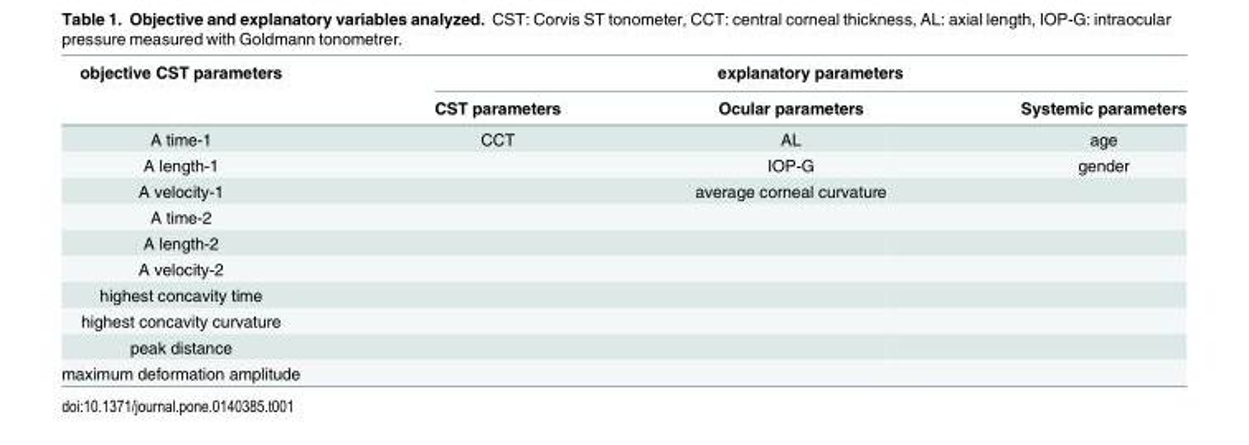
<table><thead><tr><td rowspan="2">objective CST parameters</td><td colspan="3">explanatory parameters</td></tr><tr><td>CST parameters</td><td>Ocular parameters</td><td>Systemic parameters</td></tr></thead><tbody><tr><td>A time-1</td><td>CCT</td><td>AL</td><td>age</td></tr><tr><td>A length-1</td><td></td><td>IOP-G</td><td>gender</td></tr><tr><td>A velocity-1</td><td></td><td>average corneal curvature</td><td></td></tr><tr><td colspan="4">A time-2</td></tr><tr><td colspan="4">A length-2</td></tr><tr><td colspan="4">A velocity-2</td></tr><tr><td colspan="4">highest concavity time</td></tr><tr><td colspan="4">highest concavity curvature</td></tr><tr><td colspan="4">peak distance</td></tr><tr><td>maximum deformation amplitude</td><td></td><td></td><td></td></tr></tbody></table>